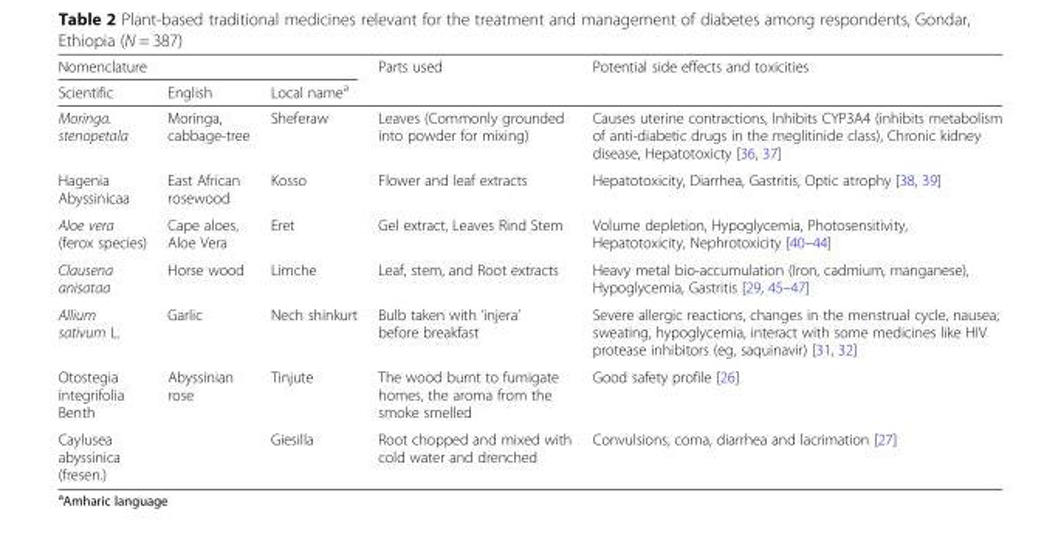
<table><thead><tr><td colspan="3">Nomenclature</td><td rowspan="2">Parts used</td><td rowspan="2">Potential side effects and toxicities</td></tr><tr><td>Scientific</td><td>English</td><td>Local name<sup>a</sup></td></tr></thead><tbody><tr><td>Moringa. stenopetala</td><td>Moringa, cabbage-tree</td><td>Sheferaw</td><td>Leaves (Commonly grounded into powder for mixing)</td><td>Causes uterine contractions, Inhibits CYP3A4 (inhibits metabolism of anti-diabetic drugs in the meglitinide class), Chronic kidney disease, Hepatotoxicty [36, 37]</td></tr><tr><td>Hagenia Abyssinicaa</td><td>East African rosewood</td><td>Kosso</td><td>Flower and leaf extracts</td><td>Hepatotoxicity, Diarrhea, Gastritis, Optic atrophy [38, 39]</td></tr><tr><td>Aloe vera (ferox species)</td><td>Cape aloes, Aloe Vera</td><td>Eret</td><td>Gel extract, Leaves Rind Stem</td><td>Volume depletion, Hypoglycemia, Photosensitivity, Hepatotoxicity, Nephrotoxicity [40–44]</td></tr><tr><td>Clausena anisataa</td><td>Horse wood</td><td>Limche</td><td>Leaf, stem, and Root extracts</td><td>Heavy metal bio-accumulation (Iron, cadmium, manganese), Hypoglycemia, Gastritis [29, 45–47]</td></tr><tr><td>Allium sativum L.</td><td>Garlic</td><td>Nech shinkurt</td><td>Bulb taken with ‘injera’ before breakfast</td><td>Severe allergic reactions, changes in the menstrual cycle, nausea; sweating, hypoglycemia, interact with some medicines like HIV protease inhibitors (eg, saquinavir) [31, 32]</td></tr><tr><td>Otostegia integrifolia Benth</td><td>Abyssinian rose</td><td>Tinjute</td><td>The wood burnt to fumigate homes, the aroma from the smoke smelled</td><td>Good safety profile [26]</td></tr><tr><td>Caylusea abyssinica (fresen.)</td><td></td><td>Giesilla</td><td>Root chopped and mixed with cold water and drenched</td><td>Convulsions, coma, diarrhea and lacrimation [27]</td></tr></tbody></table>